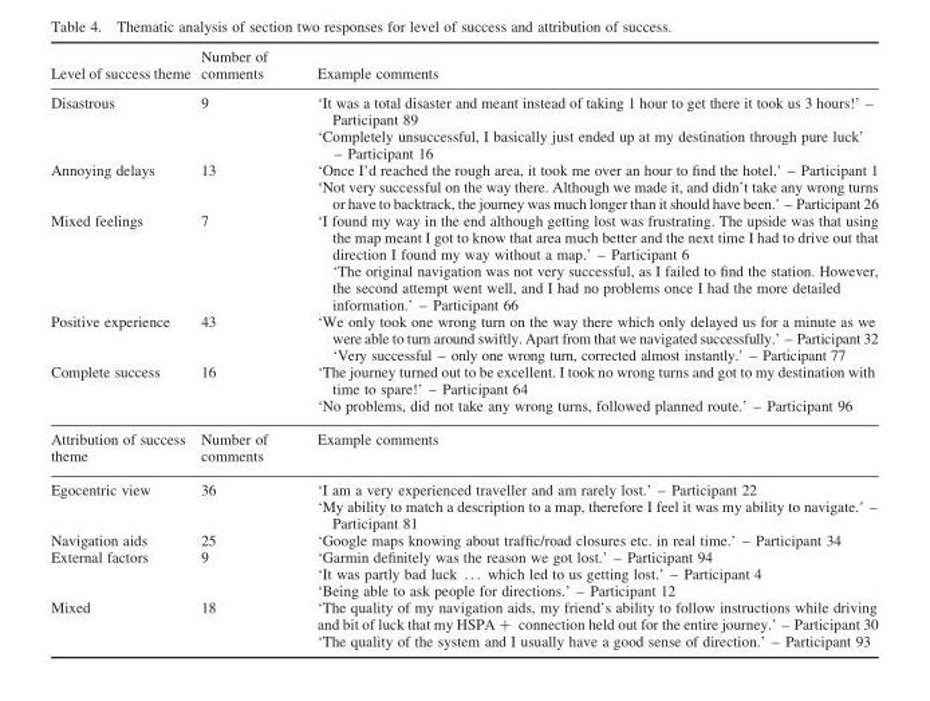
<table><thead><tr><td>Level of success theme</td><td>Number of comments</td><td>Example comments</td></tr></thead><tbody><tr><td>Disastrous</td><td>9</td><td>‘It was a total disaster and meant instead of taking 1 hour to get there it took us 3 hours!’ – Participant 89 ‘Completely unsuccessful, I basically just ended up at my destination through pure luck’ – Participant 16</td></tr><tr><td>Annoying delays</td><td>13</td><td>‘Once I’d reached the rough area, it took me over an hour to find the hotel.’ – Participant 1 ‘Not very successful on the way there. Although we made it, and didn’t take any wrong turns or have to backtrack, the journey was much longer than it should have been.’ – Participant 26</td></tr><tr><td>Mixed feelings</td><td>7</td><td>‘I found my way in the end although getting lost was frustrating. The upside was that using the map meant I got to know that area much better and the next time I had to drive out that direction I found my way without a map.’ – Participant 6 ‘The original navigation was not very successful, as I failed to find the station. However, the second attempt went well, and I had no problems once I had the more detailed information.’ – Participant 66</td></tr><tr><td>Positive experience</td><td>43</td><td>‘We only took one wrong turn on the way there which only delayed us for a minute as we were able to turn around swiftly. Apart from that we navigated successfully.’ – Participant 32 ‘Very successful – only one wrong turn, corrected almost instantly.’ – Participant 77</td></tr><tr><td>Complete success</td><td>16</td><td>‘The journey turned out to be excellent. I took no wrong turns and got to my destination with time to spare!’ – Participant 64 ‘No problems, did not take any wrong turns, followed planned route.’ – Participant 96</td></tr><tr><td>Attribution of success theme</td><td>Number of comments</td><td>Example comments</td></tr><tr><td>Egocentric view</td><td>36</td><td>‘I am a very experienced traveller and am rarely lost.’ – Participant 22 ‘My ability to match a description to a map, therefore I feel it was my ability to navigate.’ – Participant 81</td></tr><tr><td>Navigation aids</td><td>25</td><td>‘Google maps knowing about traffic/road closures etc. in real time.’ – Participant 34</td></tr><tr><td>External factors</td><td>9</td><td>‘Garmin definitely was the reason we got lost.’ – Participant 94 ‘It was partly bad luck . . . which led to us getting lost.’ – Participant 4 ‘Being able to ask people for directions.’ – Participant 12</td></tr><tr><td>Mixed</td><td>18</td><td>‘The quality of my navigation aids, my friend’s ability to follow instructions while driving and bit of luck that my HSPA + connection held out for the entire journey.’ – Participant 30 ‘The quality of the system and I usually have a good sense of direction.’ – Participant 93</td></tr></tbody></table>